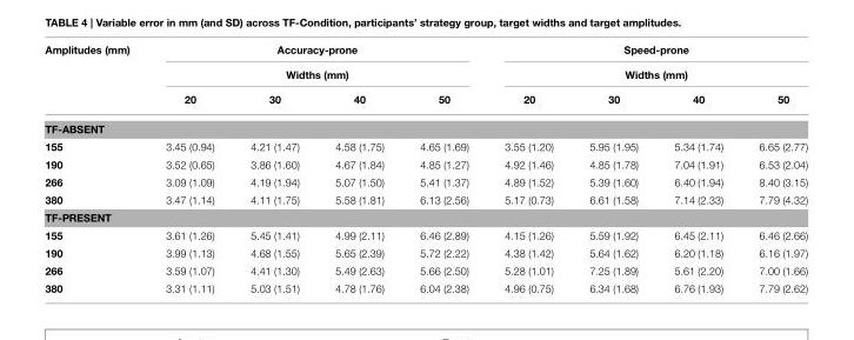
<table><thead><tr><td rowspan="3">Amplitudes (mm)</td><td rowspan="2" colspan="4">Accuracy-prone Widths (mm)</td><td rowspan="2" colspan="4">Speed-prone Widths (mm)</td></tr><tr></tr><tr><td>20</td><td>30</td><td>40</td><td>50</td><td>20</td><td>30</td><td>40</td><td>50</td></tr></thead><tbody><tr><td colspan="9">TF-ABSENT</td></tr><tr><td>155</td><td>3.45 (0.94)</td><td>4.21 (1.47)</td><td>4.58 (1.75)</td><td>4.65 (1.69)</td><td>3.55 (1.20)</td><td>5.95 (1.95)</td><td>5.34 (1.74)</td><td>6.65 (2.77)</td></tr><tr><td>190</td><td>3.52 (0.65)</td><td>3.86 (1.60)</td><td>4.67 (1.84)</td><td>4.85 (1.27)</td><td>4.92 (1.46)</td><td>4.85 (1.78)</td><td>7.04 (1.91)</td><td>6.53 (2.04)</td></tr><tr><td>266</td><td>3.09 (1.09)</td><td>4.19 (1.94)</td><td>5.07 (1.50)</td><td>5.41 (1.37)</td><td>4.89 (1.52)</td><td>5.39 (1.60)</td><td>6.40 (1.94)</td><td>8.40 (3.15)</td></tr><tr><td>380</td><td>3.47 (1.14)</td><td>4.11 (1.75)</td><td>5.58 (1.81)</td><td>6.13 (2.56)</td><td>5.17 (0.73)</td><td>6.61 (1.58)</td><td>7.14 (2.33)</td><td>7.79 (4.32)</td></tr><tr><td colspan="9">TF-PRESENT</td></tr><tr><td>155</td><td>3.61 (1.26)</td><td>5.45 (1.41)</td><td>4.99 (2.11)</td><td>6.46 (2.89)</td><td>4.15 (1.26)</td><td>5.59 (1.92)</td><td>6.45 (2.11)</td><td>6.46 (2.66)</td></tr><tr><td>190</td><td>3.99 (1.13)</td><td>4.68 (1.55)</td><td>5.65 (2.39)</td><td>5.72 (2.22)</td><td>4.38 (1.42)</td><td>5.64 (1.62)</td><td>6.20 (1.18)</td><td>6.16 (1.97)</td></tr><tr><td>266</td><td>3.59 (1.07)</td><td>4.41 (1.30)</td><td>5.49 (2.63)</td><td>5.66 (2.50)</td><td>5.28 (1.01)</td><td>7.25 (1.89)</td><td>5.61 (2.20)</td><td>7.00 (1.66)</td></tr><tr><td>380</td><td>3.31 (1.11)</td><td>5.03 (1.51)</td><td>4.78 (1.76)</td><td>6.04 (2.38)</td><td>4.96 (0.75)</td><td>6.34 (1.68)</td><td>6.76 (1.93)</td><td>7.79 (2.62)</td></tr></tbody></table>